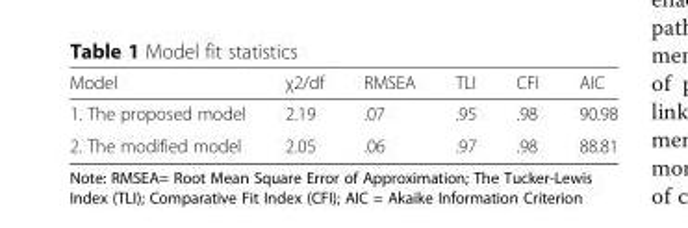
<table><thead><tr><td>Model</td><td>χ2/df</td><td>RMSEA</td><td>TLI</td><td>CFI</td><td>AIC</td></tr></thead><tbody><tr><td>1. The proposed model</td><td>2.19</td><td>.07</td><td>.95</td><td>.98</td><td>90.98</td></tr><tr><td>2. The modified model</td><td>2.05</td><td>.06</td><td>.97</td><td>.98</td><td>88.81</td></tr></tbody></table>